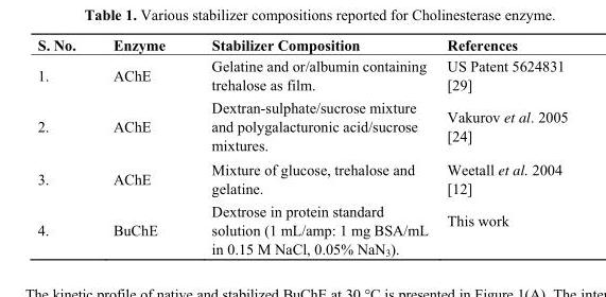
<table><thead><tr><td>S. No.</td><td>Enzyme</td><td>Stabilizer Composition</td><td>References</td></tr></thead><tbody><tr><td>1.</td><td>AChE</td><td>Gelatine and or/albumin containing trehalose as film.</td><td>US Patent 5624831 [29]</td></tr><tr><td>2.</td><td>AChE</td><td>Dextran-sulphate/sucrose mixture and polygalacturonic acid/sucrose mixtures.</td><td>Vakurov et al. 2005 [24]</td></tr><tr><td>3.</td><td>AChE</td><td>Mixture of glucose, trehalose and gelatine.</td><td>Weetall et al. 2004 [12]</td></tr><tr><td>4.</td><td>BuChE</td><td>Dextrose in protein standard solution (1 mL/amp: 1 mg BSA/mL in 0.15 M NaCl, 0.05% NaN<sub>3</sub>).</td><td>This work</td></tr></tbody></table>